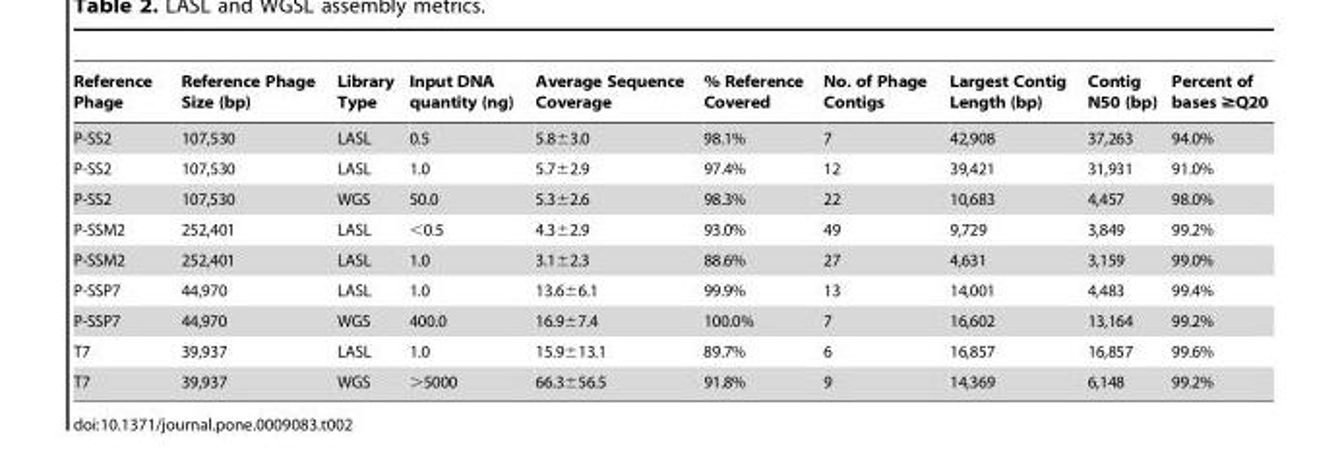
<table><thead><tr><td>Reference Phage</td><td>Reference Phage Size (bp)</td><td>Library Type</td><td>Input DNA quantity (ng)</td><td>Average Sequence Coverage</td><td>% Reference Covered</td><td>No. of Phage Contigs</td><td>Largest Contig Length (bp)</td><td>Contig N50 (bp)</td><td>Percent of bases ≥Q20</td></tr></thead><tbody><tr><td>P-SS2</td><td>107,530</td><td>LASL</td><td>0.5</td><td>5.8±3.0</td><td>98.1%</td><td>7</td><td>42,908</td><td>37,263</td><td>94.0%</td></tr><tr><td>P-SS2</td><td>107,530</td><td>LASL</td><td>1.0</td><td>5.7±2.9</td><td>97.4%</td><td>12</td><td>39,421</td><td>31,931</td><td>91.0%</td></tr><tr><td>P-SS2</td><td>107,530</td><td>WGS</td><td>50.0</td><td>5.3±2.6</td><td>98.3%</td><td>22</td><td>10,683</td><td>4,457</td><td>98.0%</td></tr><tr><td>P-SSM2</td><td>252,401</td><td>LASL</td><td>&lt;0.5</td><td>4.3±2.9</td><td>93.0%</td><td>49</td><td>9,729</td><td>3,849</td><td>99.2%</td></tr><tr><td>P-SSM2</td><td>252,401</td><td>LASL</td><td>1.0</td><td>3.1±2.3</td><td>88.6%</td><td>27</td><td>4,631</td><td>3,159</td><td>99.0%</td></tr><tr><td>P-SSP7</td><td>44,970</td><td>LASL</td><td>1.0</td><td>13.6±6.1</td><td>99.9%</td><td>13</td><td>14,001</td><td>4,483</td><td>99.4%</td></tr><tr><td>P-SSP7</td><td>44,970</td><td>WGS</td><td>400.0</td><td>16.9±7.4</td><td>100.0%</td><td>7</td><td>16,602</td><td>13,164</td><td>99.2%</td></tr><tr><td>T7</td><td>39,937</td><td>LASL</td><td>1.0</td><td>15.9±13.1</td><td>89.7%</td><td>6</td><td>16,857</td><td>16,857</td><td>99.6%</td></tr><tr><td>T7</td><td>39,937</td><td>WGS</td><td>&gt;5000</td><td>66.3±56.5</td><td>91.8%</td><td>9</td><td>14,369</td><td>6,148</td><td>99.2%</td></tr></tbody></table>